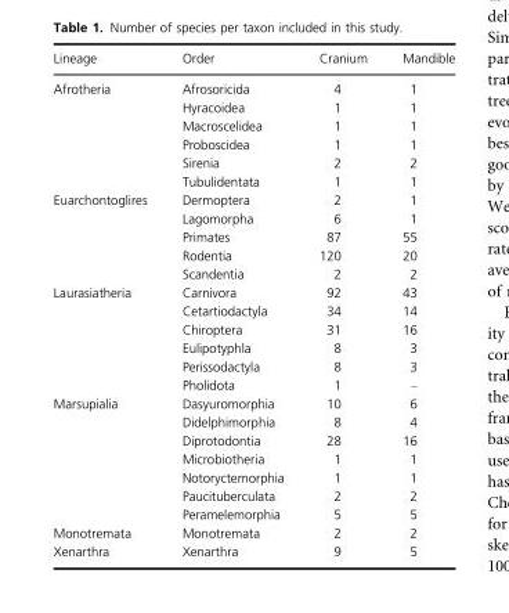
<table><thead><tr><td>Lineage</td><td>Order</td><td>Cranium</td><td>Mandible</td></tr></thead><tbody><tr><td rowspan="6">Afrotheria</td><td>Afrosoricida</td><td>4</td><td>1</td></tr><tr><td>Hyracoidea</td><td>1</td><td>1</td></tr><tr><td>Macroscelidea</td><td>1</td><td>1</td></tr><tr><td>Proboscidea</td><td>1</td><td>1</td></tr><tr><td>Sirenia</td><td>2</td><td>2</td></tr><tr><td>Tubulidentata</td><td>1</td><td>1</td></tr><tr><td rowspan="5">Euarchontoglires</td><td>Dermoptera</td><td>2</td><td>1</td></tr><tr><td>Lagomorpha</td><td>6</td><td>1</td></tr><tr><td>Primates</td><td>87</td><td>55</td></tr><tr><td>Rodentia</td><td>120</td><td>20</td></tr><tr><td>Scandentia</td><td>2</td><td>2</td></tr><tr><td rowspan="6">Laurasiatheria</td><td>Carnivora</td><td>92</td><td>43</td></tr><tr><td>Cetartiodactyla</td><td>34</td><td>14</td></tr><tr><td>Chiroptera</td><td>31</td><td>16</td></tr><tr><td>Eulipotyphla</td><td>8</td><td>3</td></tr><tr><td>Perissodactyla</td><td>8</td><td>3</td></tr><tr><td>Pholidota</td><td>1</td><td>–</td></tr><tr><td rowspan="7">Marsupialia</td><td>Dasyuromorphia</td><td>10</td><td>6</td></tr><tr><td>Didelphimorphia</td><td>8</td><td>4</td></tr><tr><td>Diprotodontia</td><td>28</td><td>16</td></tr><tr><td>Microbiotheria</td><td>1</td><td>1</td></tr><tr><td>Notoryctemorphia</td><td>1</td><td>1</td></tr><tr><td>Paucituberculata</td><td>2</td><td>2</td></tr><tr><td>Peramelemorphia</td><td>5</td><td>5</td></tr><tr><td>Monotremata</td><td>Monotremata</td><td>2</td><td>2</td></tr><tr><td>Xenarthra</td><td>Xenarthra</td><td>9</td><td>5</td></tr></tbody></table>